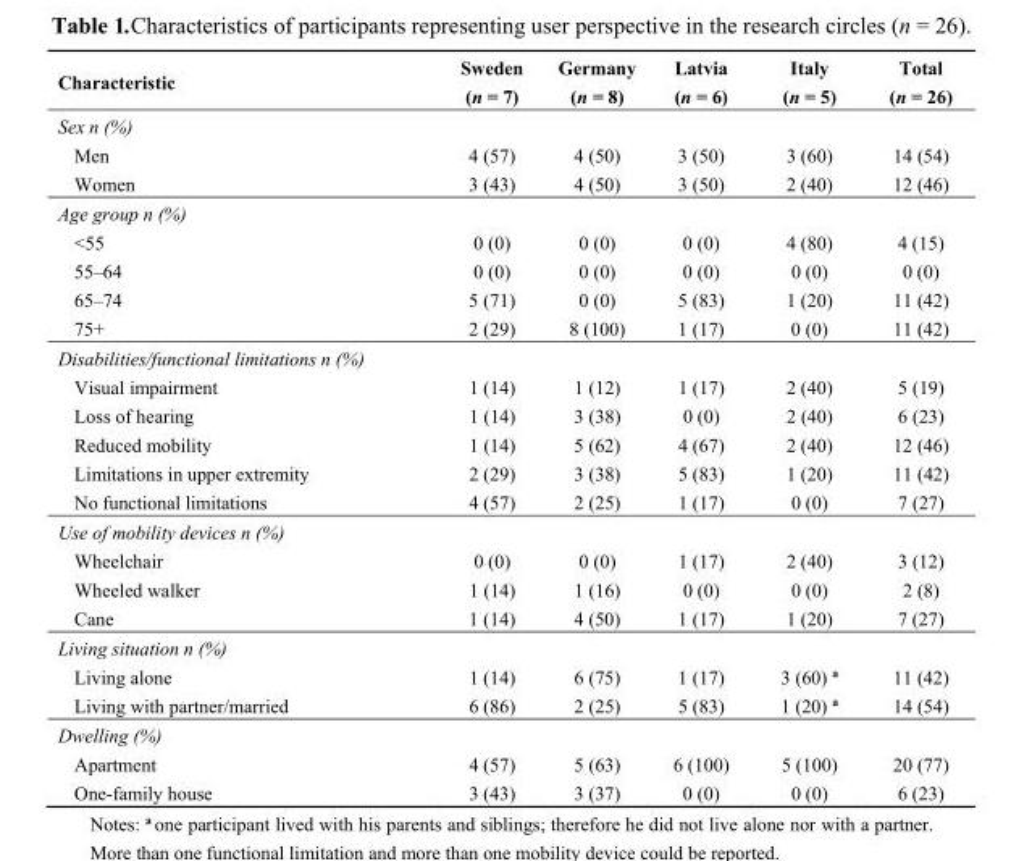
<table><thead><tr><td>Characteristic</td><td>Sweden (n = 7)</td><td>Germany (n = 8)</td><td>Latvia (n = 6)</td><td>Italy (n = 5)</td><td>Total (n = 26)</td></tr></thead><tbody><tr><td colspan="6">Sex n (%)</td></tr><tr><td>Men</td><td>4 (57)</td><td>4 (50)</td><td>3 (50)</td><td>3 (60)</td><td>14 (54)</td></tr><tr><td>Women</td><td>3 (43)</td><td>4 (50)</td><td>3 (50)</td><td>2 (40)</td><td>12 (46)</td></tr><tr><td colspan="6">Age group n (%)</td></tr><tr><td>&lt;55</td><td>0 (0)</td><td>0 (0)</td><td>0 (0)</td><td>4 (80)</td><td>4 (15)</td></tr><tr><td>55–64</td><td>0 (0)</td><td>0 (0)</td><td>0 (0)</td><td>0 (0)</td><td>0 (0)</td></tr><tr><td>65–74</td><td>5 (71)</td><td>0 (0)</td><td>5 (83)</td><td>1 (20)</td><td>11 (42)</td></tr><tr><td>75+</td><td>2 (29)</td><td>8 (100)</td><td>1 (17)</td><td>0 (0)</td><td>11 (42)</td></tr><tr><td colspan="6">Disabilities/functional limitations n (%)</td></tr><tr><td>Visual impairment</td><td>1 (14)</td><td>1 (12)</td><td>1 (17)</td><td>2 (40)</td><td>5 (19)</td></tr><tr><td>Loss of hearing</td><td>1 (14)</td><td>3 (38)</td><td>0 (0)</td><td>2 (40)</td><td>6 (23)</td></tr><tr><td>Reduced mobility</td><td>1 (14)</td><td>5 (62)</td><td>4 (67)</td><td>2 (40)</td><td>12 (46)</td></tr><tr><td>Limitations in upper extremity</td><td>2 (29)</td><td>3 (38)</td><td>5 (83)</td><td>1 (20)</td><td>11 (42)</td></tr><tr><td>No functional limitations</td><td>4 (57)</td><td>2 (25)</td><td>1 (17)</td><td>0 (0)</td><td>7 (27)</td></tr><tr><td colspan="6">Use of mobility devices n (%)</td></tr><tr><td>Wheelchair</td><td>0 (0)</td><td>0 (0)</td><td>1 (17)</td><td>2 (40)</td><td>3 (12)</td></tr><tr><td>Wheeled walker</td><td>1 (14)</td><td>1 (16)</td><td>0 (0)</td><td>0 (0)</td><td>2 (8)</td></tr><tr><td>Cane</td><td>1 (14)</td><td>4 (50)</td><td>1 (17)</td><td>1 (20)</td><td>7 (27)</td></tr><tr><td colspan="6">Living situation n (%)</td></tr><tr><td>Living alone</td><td>1 (14)</td><td>6 (75)</td><td>1 (17)</td><td>3 (60) <sup>a</sup></td><td>11 (42)</td></tr><tr><td>Living with partner/married</td><td>6 (86)</td><td>2 (25)</td><td>5 (83)</td><td>1 (20) <sup>a</sup></td><td>14 (54)</td></tr><tr><td colspan="6">Dwelling (%)</td></tr><tr><td>Apartment</td><td>4 (57)</td><td>5 (63)</td><td>6 (100)</td><td>5 (100)</td><td>20 (77)</td></tr><tr><td>One-family house</td><td>3 (43)</td><td>3 (37)</td><td>0 (0)</td><td>0 (0)</td><td>6 (23)</td></tr></tbody></table>